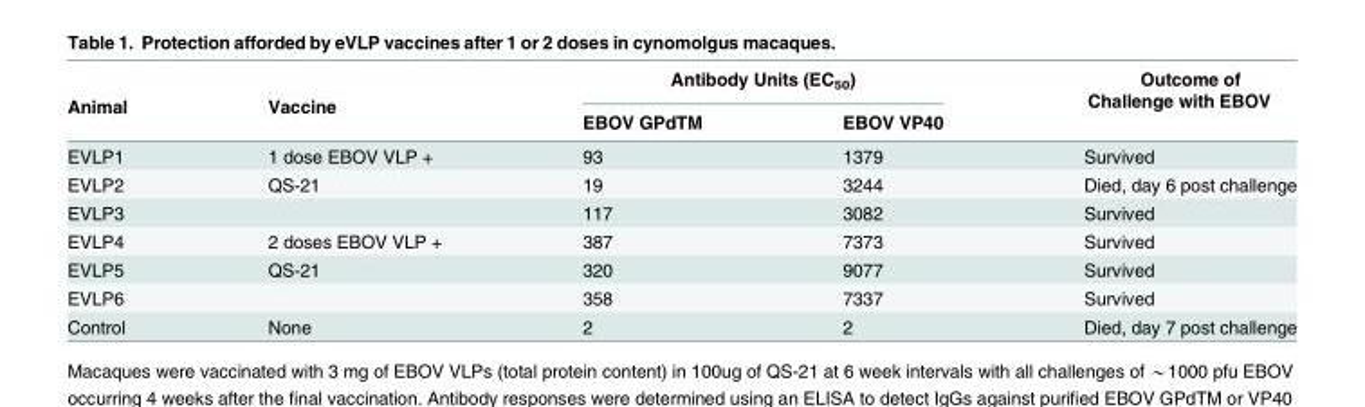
<table><thead><tr><td rowspan="2">Animal</td><td rowspan="2">Vaccine</td><td colspan="2">Antibody Units (EC<sub>50</sub>)</td><td rowspan="2">Outcome of Challenge with EBOV</td></tr><tr><td>EBOV GPdTM</td><td>EBOV VP40</td></tr></thead><tbody><tr><td>EVLP1</td><td>1 dose EBOV VLP +</td><td>93</td><td>1379</td><td>Survived</td></tr><tr><td>EVLP2</td><td>QS-21</td><td>19</td><td>3244</td><td>Died, day 6 post challenge</td></tr><tr><td>EVLP3</td><td></td><td>117</td><td>3082</td><td>Survived</td></tr><tr><td>EVLP4</td><td>2 doses EBOV VLP +</td><td>387</td><td>7373</td><td>Survived</td></tr><tr><td>EVLP5</td><td>QS-21</td><td>320</td><td>9077</td><td>Survived</td></tr><tr><td>EVLP6</td><td></td><td>358</td><td>7337</td><td>Survived</td></tr><tr><td>Control</td><td>None</td><td>2</td><td>2</td><td>Died, day 7 post challenge</td></tr></tbody></table>